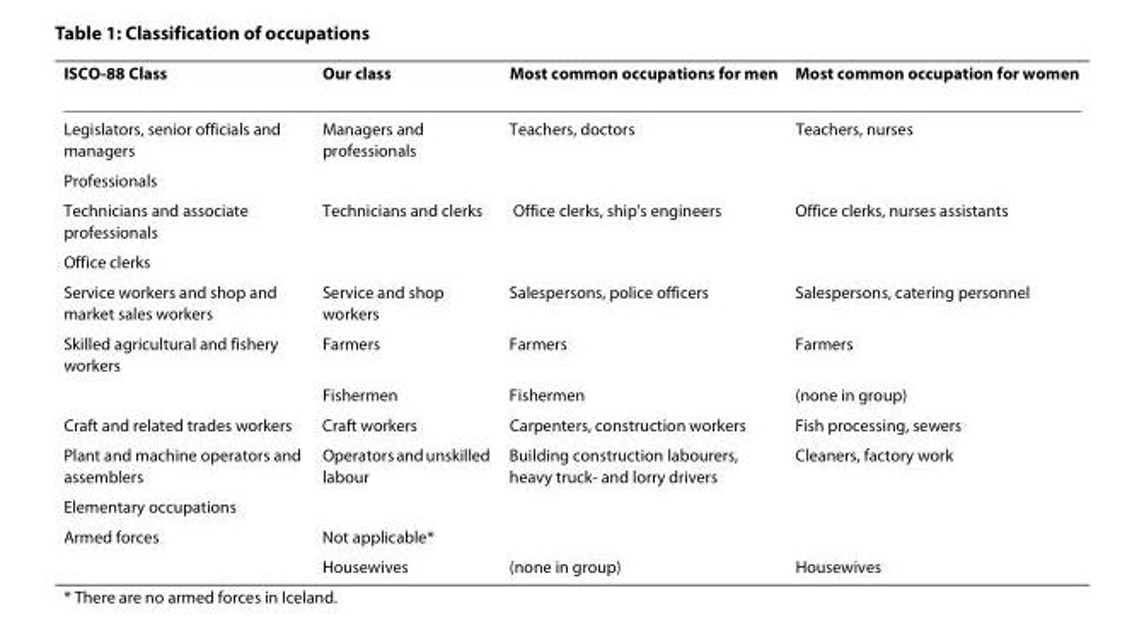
<table><thead><tr><td>ISCO-88 Class</td><td>Our class</td><td>Most common occupations for men</td><td>Most common occupation for women</td></tr></thead><tbody><tr><td>Legislators, senior officials and managers</td><td>Managers and professionals</td><td>Teachers, doctors</td><td>Teachers, nurses</td></tr><tr><td colspan="4">Professionals</td></tr><tr><td>Technicians and associate professionals</td><td>Technicians and clerks</td><td>Office clerks, ship&#x27;s engineers</td><td>Office clerks, nurses assistants</td></tr><tr><td colspan="4">Office clerks</td></tr><tr><td>Service workers and shop and market sales workers</td><td>Service and shop workers</td><td>Salespersons, police officers</td><td>Salespersons, catering personnel</td></tr><tr><td rowspan="2">Skilled agricultural and fishery workers</td><td>Farmers</td><td>Farmers</td><td>Farmers</td></tr><tr><td>Fishermen</td><td>Fishermen</td><td>(none in group)</td></tr><tr><td>Craft and related trades workers</td><td>Craft workers</td><td>Carpenters, construction workers</td><td>Fish processing, sewers</td></tr><tr><td>Plant and machine operators and assemblers</td><td>Operators and unskilled labour</td><td>Building construction labourers, heavy truck- and lorry drivers</td><td>Cleaners, factory work</td></tr><tr><td colspan="4">Elementary occupations</td></tr><tr><td rowspan="2">Armed forces</td><td>Not applicable*</td><td></td><td></td></tr><tr><td>Housewives</td><td>(none in group)</td><td>Housewives</td></tr></tbody></table>